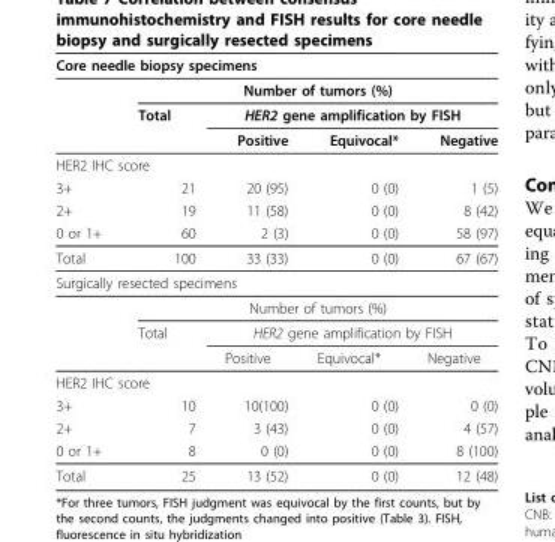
<table><thead><tr><td colspan="5">Core needle biopsy specimens</td></tr><tr><td rowspan="3"></td><td colspan="4">Number of tumors (%)</td></tr><tr><td rowspan="2">Total</td><td colspan="3">HER2 gene amplification by FISH</td></tr><tr><td>Positive</td><td>Equivocal*</td><td>Negative</td></tr></thead><tbody><tr><td colspan="5">HER2 IHC score</td></tr><tr><td>3+</td><td>21</td><td>20 (95)</td><td>0 (0)</td><td>1 (5)</td></tr><tr><td>2+</td><td>19</td><td>11 (58)</td><td>0 (0)</td><td>8 (42)</td></tr><tr><td>0 or 1+</td><td>60</td><td>2 (3)</td><td>0 (0)</td><td>58 (97)</td></tr><tr><td>Total</td><td>100</td><td>33 (33)</td><td>0 (0)</td><td>67 (67)</td></tr><tr><td colspan="5">Surgically resected specimens</td></tr><tr><td></td><td colspan="4">Number of tumors (%)</td></tr><tr><td></td><td>Total</td><td colspan="3">HER2 gene amplification by FISH</td></tr><tr><td></td><td></td><td>Positive</td><td>Equivocal*</td><td>Negative</td></tr><tr><td colspan="5">HER2 IHC score</td></tr><tr><td>3+</td><td>10</td><td>10(100)</td><td>0 (0)</td><td>0 (0)</td></tr><tr><td>2+</td><td>7</td><td>3 (43)</td><td>0 (0)</td><td>4 (57)</td></tr><tr><td>0 or 1+</td><td>8</td><td>0 (0)</td><td>0 (0)</td><td>8 (100)</td></tr><tr><td>Total</td><td>25</td><td>13 (52)</td><td>0 (0)</td><td>12 (48)</td></tr></tbody></table>